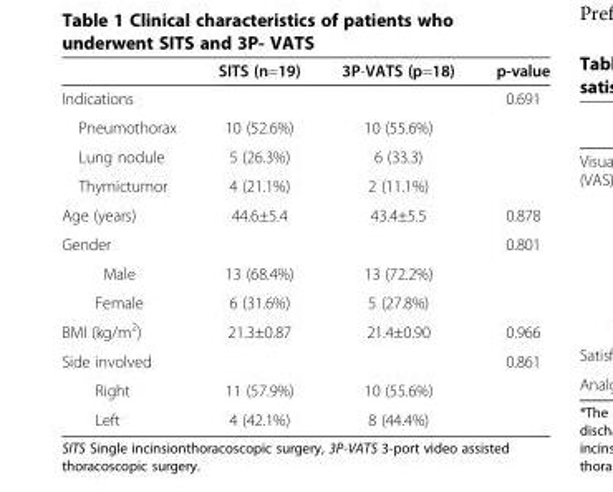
<table><thead><tr><td></td><td>SITS (n=19)</td><td>3P-VATS (p=18)</td><td>p-value</td></tr></thead><tbody><tr><td>Indications</td><td></td><td></td><td>0.691</td></tr><tr><td>Pneumothorax</td><td>10 (52.6%)</td><td>10 (55.6%)</td><td></td></tr><tr><td>Lung nodule</td><td>5 (26.3%)</td><td>6 (33.3)</td><td></td></tr><tr><td>Thymictumor</td><td>4 (21.1%)</td><td>2 (11.1%)</td><td></td></tr><tr><td>Age (years)</td><td>44.6±5.4</td><td>43.4±5.5</td><td>0.878</td></tr><tr><td>Gender</td><td></td><td></td><td>0.801</td></tr><tr><td>Male</td><td>13 (68.4%)</td><td>13 (72.2%)</td><td></td></tr><tr><td>Female</td><td>6 (31.6%)</td><td>5 (27.8%)</td><td></td></tr><tr><td>BMI (kg/m<sup>2</sup>)</td><td>21.3±0.87</td><td>21.4±0.90</td><td>0.966</td></tr><tr><td>Side involved</td><td></td><td></td><td>0.861</td></tr><tr><td>Right</td><td>11 (57.9%)</td><td>10 (55.6%)</td><td></td></tr><tr><td>Left</td><td>4 (42.1%)</td><td>8 (44.4%)</td><td></td></tr></tbody></table>